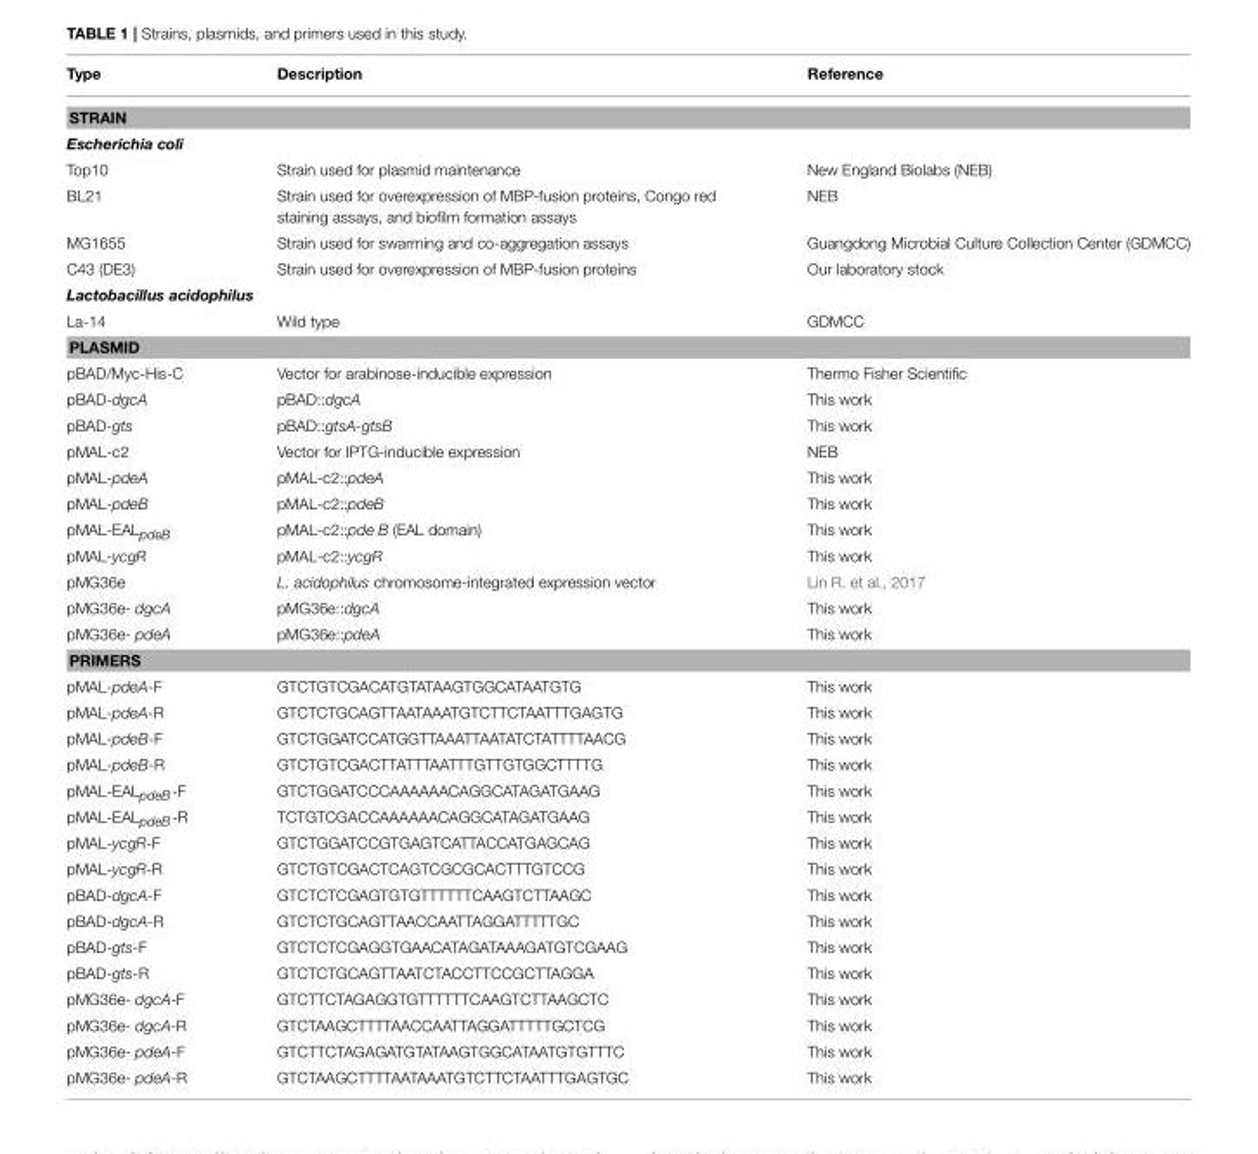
<table><thead><tr><td>Type</td><td>Description</td><td>Reference</td></tr></thead><tbody><tr><td colspan="3">STRAIN</td></tr><tr><td colspan="3">Escherichia coli</td></tr><tr><td>Top10</td><td>Strain used for plasmid maintenance</td><td>New England Biolabs (NEB)</td></tr><tr><td>BL21</td><td>Strain used for overexpression of MBP-fusion proteins, Congo red staining assays, and biofilm formation assays</td><td>NEB</td></tr><tr><td>MG1655</td><td>Strain used for swarming and co-aggregation assays</td><td>Guangdong Microbial Culture Collection Center (GDMCC)</td></tr><tr><td>C43 (DE3)</td><td>Strain used for overexpression of MBP-fusion proteins</td><td>Our laboratory stock</td></tr><tr><td colspan="3">Lactobacillus acidophilus</td></tr><tr><td>La-14</td><td>Wild type</td><td>GDMCC</td></tr><tr><td colspan="3">PLASMID</td></tr><tr><td>pBAD/Myc-His-C</td><td>Vector for arabinose-inducible expression</td><td>Thermo Fisher Scientific</td></tr><tr><td>pBAD-dgcA</td><td>pBAD::dgcA</td><td>This work</td></tr><tr><td>pBAD-gts</td><td>pBAD::gtsA-gtsB</td><td>This work</td></tr><tr><td>pMAL-c2</td><td>Vector for IPTG-inducible expression</td><td>NEB</td></tr><tr><td>pMAL-pdeA</td><td>pMAL-c2::pdeA</td><td>This work</td></tr><tr><td>pMAL-pdeB</td><td>pMAL-c2::pdeB</td><td>This work</td></tr><tr><td>pMAL-EALpdeB</td><td>pMAL-c2::pde B (EAL domain)</td><td>This work</td></tr><tr><td>pMAL-ycgR</td><td>pMAL-c2::ycgR</td><td>This work</td></tr><tr><td>pMG36e</td><td>L. acidophilus chromosome-integrated expression vector</td><td>Lin R. et al., 2017</td></tr><tr><td>pMG36e- dgcA</td><td>pMG36e::dgcA</td><td>This work</td></tr><tr><td>pMG36e- pdeA</td><td>pMG36e::pdeA</td><td>This work</td></tr><tr><td colspan="3">PRIMERS</td></tr><tr><td>pMAL-pdeA-F</td><td>GTCTGTCGACATGTATAAGTGGCATAATGTG</td><td>This work</td></tr><tr><td>pMAL-pdeA-R</td><td>GTCTCTGCAGTTAATAAATGTCTTCTAATTTGAGTG</td><td>This work</td></tr><tr><td>pMAL-pdeB-F</td><td>GTCTGGATCCATGGTTAAATTAATATCTATTTTAACG</td><td>This work</td></tr><tr><td>pMAL-pdeB-R</td><td>GTCTGTCGACTTATTTAATTTGTTGTGGCTTTTG</td><td>This work</td></tr><tr><td>pMAL-EALpdeB-F</td><td>GTCTGGATCCCAAAAAACAGGCATAGATGAAG</td><td>This work</td></tr><tr><td>pMAL-EALpdeB-R</td><td>TCTGTCGACCAAAAAACAGGCATAGATGAAG</td><td>This work</td></tr><tr><td>pMAL-ycgR-F</td><td>GTCTGGATCCGTGAGTCATTACCATGAGCAG</td><td>This work</td></tr><tr><td>pMAL-ycgR-R</td><td>GTCTGTCGACTCAGTCGCGCACTTTGTCCG</td><td>This work</td></tr><tr><td>pBAD-dgcA-F</td><td>GTCTCTCGAGTGTGTTTTTTCAAGTCTTAAGC</td><td>This work</td></tr><tr><td>pBAD-dgcA-R</td><td>GTCTCTGCAGTTAACCAATTAGGATTTTTGC</td><td>This work</td></tr><tr><td>pBAD-gts-F</td><td>GTCTCTCGAGGTGAACATAGATAAAGATGTCGAAG</td><td>This work</td></tr><tr><td>pBAD-gts-R</td><td>GTCTCTGCAGTTAATCTACCTTCCGCTTAGGA</td><td>This work</td></tr><tr><td>pMG36e- dgcA-F</td><td>GTCTTCTAGAGGTGTTTTTTCAAGTCTTAAGCTC</td><td>This work</td></tr><tr><td>pMG36e- dgcA-R</td><td>GTCTAAGCTTTTAACCAATTAGGATTTTTGCTCG</td><td>This work</td></tr><tr><td>pMG36e- pdeA-F</td><td>GTCTTCTAGAGATGTATAAGTGGCATAATGTGTTTC</td><td>This work</td></tr><tr><td>pMG36e- pdeA-R</td><td>GTCTAAGCTTTTAATAAATGTCTTCTAATTTGAGTGC</td><td>This work</td></tr></tbody></table>